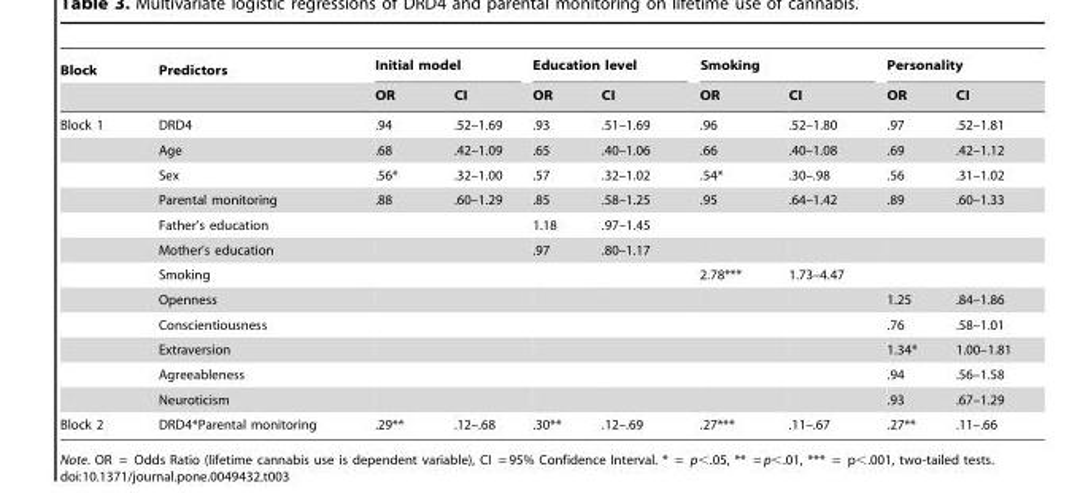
<table><thead><tr><td rowspan="2">Block</td><td rowspan="2">Predictors</td><td colspan="2">Initial model</td><td colspan="2">Education level</td><td colspan="2">Smoking</td><td colspan="2">Personality</td></tr><tr><td>OR</td><td>CI</td><td>OR</td><td>CI</td><td>OR</td><td>CI</td><td>OR</td><td>CI</td></tr></thead><tbody><tr><td rowspan="12">Block 1</td><td>DRD4</td><td>.94</td><td>.52–1.69</td><td>.93</td><td>.51–1.69</td><td>.96</td><td>.52–1.80</td><td>.97</td><td>.52–1.81</td></tr><tr><td>Age</td><td>.68</td><td>.42–1.09</td><td>.65</td><td>.40–1.06</td><td>.66</td><td>.40–1.08</td><td>.69</td><td>.42–1.12</td></tr><tr><td>Sex</td><td>.56*</td><td>.32–1.00</td><td>.57</td><td>.32–1.02</td><td>.54*</td><td>.30–.98</td><td>.56</td><td>.31–1.02</td></tr><tr><td>Parental monitoring</td><td>.88</td><td>.60–1.29</td><td>.85</td><td>.58–1.25</td><td>.95</td><td>.64–1.42</td><td>.89</td><td>.60–1.33</td></tr><tr><td>Father’s education</td><td></td><td></td><td>1.18</td><td>.97–1.45</td><td></td><td></td><td></td><td></td></tr><tr><td>Mother’s education</td><td></td><td></td><td>.97</td><td>.80–1.17</td><td></td><td></td><td></td><td></td></tr><tr><td>Smoking</td><td></td><td></td><td></td><td></td><td>2.78***</td><td>1.73–4.47</td><td></td><td></td></tr><tr><td>Openness</td><td></td><td></td><td></td><td></td><td></td><td></td><td>1.25</td><td>.84–1.86</td></tr><tr><td>Conscientiousness</td><td></td><td></td><td></td><td></td><td></td><td></td><td>.76</td><td>.58–1.01</td></tr><tr><td>Extraversion</td><td></td><td></td><td></td><td></td><td></td><td></td><td>1.34*</td><td>1.00–1.81</td></tr><tr><td>Agreeableness</td><td></td><td></td><td></td><td></td><td></td><td></td><td>.94</td><td>.56–1.58</td></tr><tr><td>Neuroticism</td><td></td><td></td><td></td><td></td><td></td><td></td><td>.93</td><td>.67–1.29</td></tr><tr><td>Block 2</td><td>DRD4*Parental monitoring</td><td>.29**</td><td>.12–.68</td><td>.30**</td><td>.12–.69</td><td>.27***</td><td>.11–.67</td><td>.27**</td><td>.11–.66</td></tr></tbody></table>